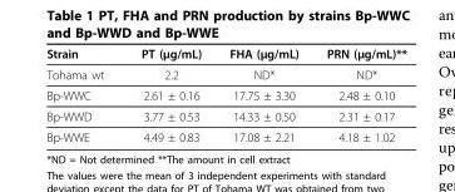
<table><thead><tr><td>Strain</td><td>PT (μg/mL)</td><td>FHA (μg/mL)</td><td>PRN (μg/mL)**</td></tr></thead><tbody><tr><td>Tohama wt</td><td>2.2</td><td>ND*</td><td>ND*</td></tr><tr><td>Bp-WWC</td><td>2.61 ± 0.16</td><td>17.75 ± 3.30</td><td>2.48 ± 0.10</td></tr><tr><td>Bp-WWD</td><td>3.77 ± 0.53</td><td>14.33 ± 0.50</td><td>2.31 ± 0.17</td></tr><tr><td>Bp-WWE</td><td>4.49 ± 0.83</td><td>17.08 ± 2.21</td><td>4.18 ± 1.02</td></tr></tbody></table>